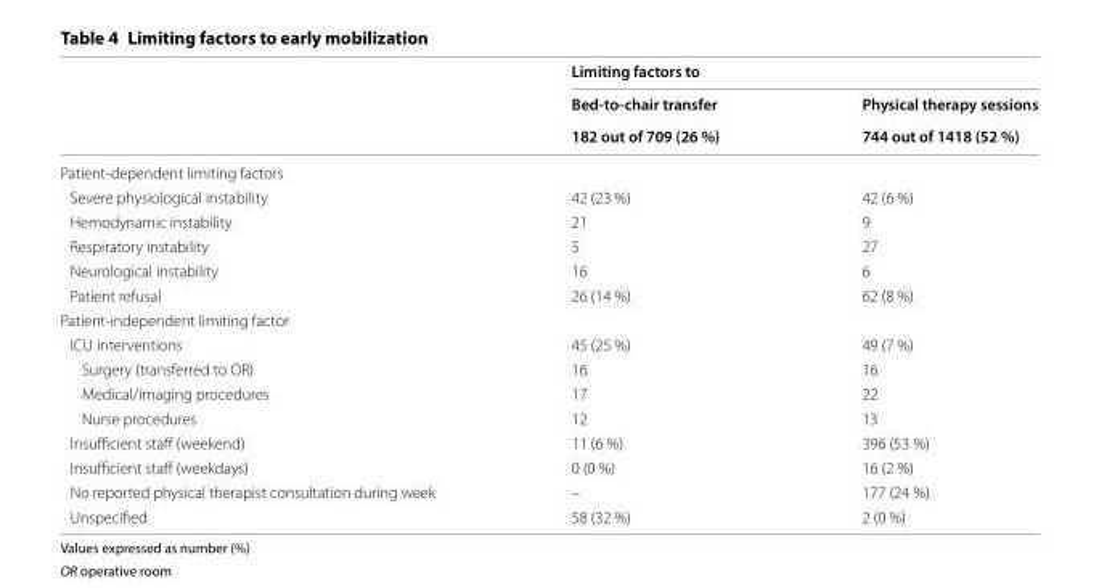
<table><thead><tr><td rowspan="3"></td><td colspan="2">Limiting factors to</td></tr><tr><td rowspan="2">Bed-to-chair transfer 182 out of 709 (26 %)</td><td rowspan="2">Physical therapy sessions 744 out of 1418 (52 %)</td></tr><tr></tr></thead><tbody><tr><td colspan="3">Patient‑dependent limiting factors</td></tr><tr><td>Severe physiological instability</td><td>42 (23 %)</td><td>42 (6 %)</td></tr><tr><td>Hemodynamic instability</td><td>21</td><td>9</td></tr><tr><td>Respiratory instability</td><td>5</td><td>27</td></tr><tr><td>Neurological instability</td><td>16</td><td>6</td></tr><tr><td>Patient refusal</td><td>26 (14 %)</td><td>62 (8 %)</td></tr><tr><td colspan="3">Patient‑independent limiting factor</td></tr><tr><td>ICU interventions</td><td>45 (25 %)</td><td>49 (7 %)</td></tr><tr><td>Surgery (transferred to OR)</td><td>16</td><td>16</td></tr><tr><td>Medical/imaging procedures</td><td>17</td><td>22</td></tr><tr><td>Nurse procedures</td><td>12</td><td>13</td></tr><tr><td>Insufficient staff (weekend)</td><td>11 (6 %)</td><td>396 (53 %)</td></tr><tr><td>Insufficient staff (weekdays)</td><td>0 (0 %)</td><td>16 (2 %)</td></tr><tr><td>No reported physical therapist consultation during week</td><td>–</td><td>177 (24 %)</td></tr><tr><td>Unspecified</td><td>58 (32 %)</td><td>2 (0 %)</td></tr></tbody></table>